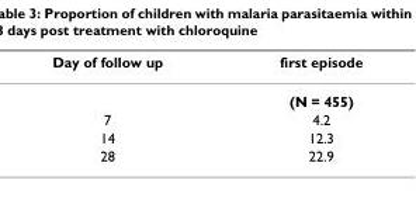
<table><thead><tr><td>Day of follow up</td><td>first episode</td></tr></thead><tbody><tr><td></td><td>(N = 455)</td></tr><tr><td>7</td><td>4.2</td></tr><tr><td>14</td><td>12.3</td></tr><tr><td>28</td><td>22.9</td></tr></tbody></table>